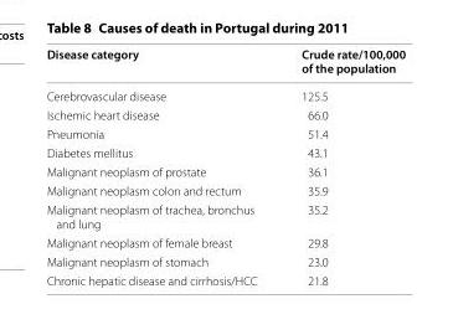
<table><thead><tr><td>Disease category</td><td>Crude rate/100,000 of the population</td></tr></thead><tbody><tr><td>Cerebrovascular disease</td><td>125.5</td></tr><tr><td>Ischemic heart disease</td><td>66.0</td></tr><tr><td>Pneumonia</td><td>51.4</td></tr><tr><td>Diabetes mellitus</td><td>43.1</td></tr><tr><td>Malignant neoplasm of prostate</td><td>36.1</td></tr><tr><td>Malignant neoplasm colon and rectum</td><td>35.9</td></tr><tr><td>Malignant neoplasm of trachea, bronchus and lung</td><td>35.2</td></tr><tr><td>Malignant neoplasm of female breast</td><td>29.8</td></tr><tr><td>Malignant neoplasm of stomach</td><td>23.0</td></tr><tr><td>Chronic hepatic disease and cirrhosis/HCC</td><td>21.8</td></tr></tbody></table>